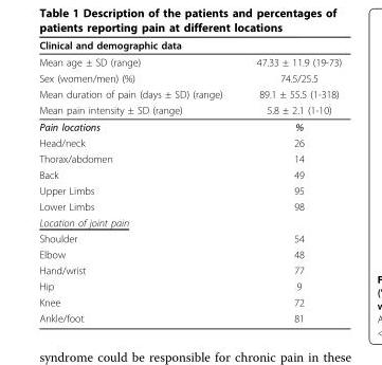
<table><thead><tr><td colspan="2">Clinical and demographic data</td></tr><tr><td>Mean age ± SD (range)</td><td>47.33 ± 11.9 (19-73)</td></tr></thead><tbody><tr><td>Sex (women/men) (%)</td><td>74.5/25.5</td></tr><tr><td>Mean duration of pain (days ± SD) (range)</td><td>89.1 ± 55.5 (1-318)</td></tr><tr><td>Mean pain intensity ± SD (range)</td><td>5.8 ± 2.1 (1-10)</td></tr><tr><td>Pain locations</td><td>%</td></tr><tr><td>Head/neck</td><td>26</td></tr><tr><td>Thorax/abdomen</td><td>14</td></tr><tr><td>Back</td><td>49</td></tr><tr><td>Upper Limbs</td><td>95</td></tr><tr><td>Lower Limbs</td><td>98</td></tr><tr><td colspan="2">Location of joint pain</td></tr><tr><td>Shoulder</td><td>54</td></tr><tr><td>Elbow</td><td>48</td></tr><tr><td>Hand/wrist</td><td>77</td></tr><tr><td>Hip</td><td>9</td></tr><tr><td>Knee</td><td>72</td></tr><tr><td>Ankle/foot</td><td>81</td></tr></tbody></table>